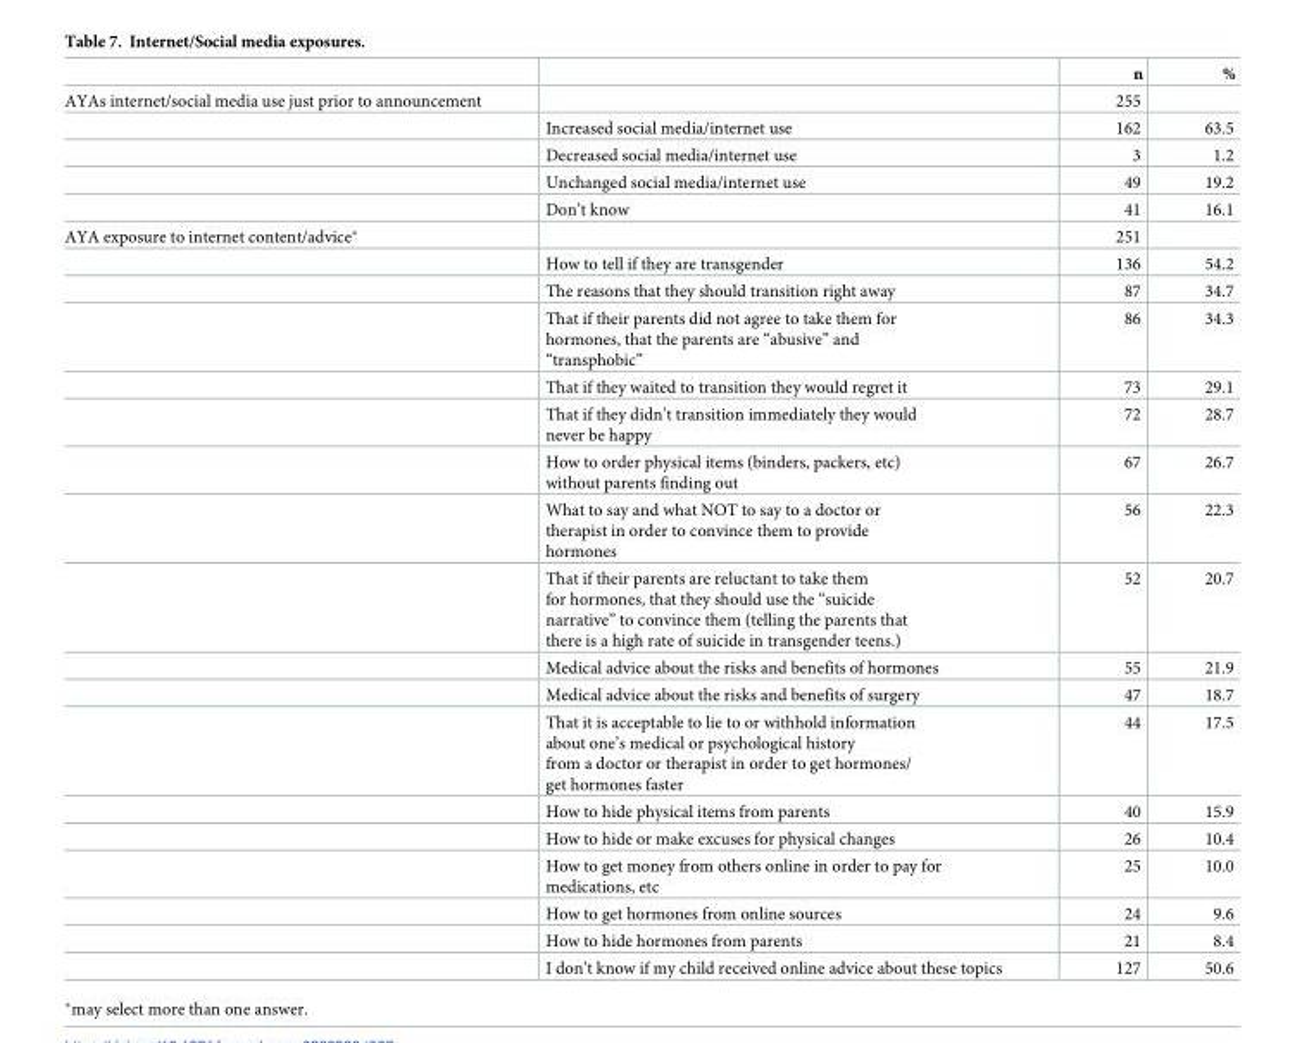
<table><thead><tr><td></td><td></td><td>n</td><td>%</td></tr></thead><tbody><tr><td rowspan="5">AYAs internet/social media use just prior to announcement</td><td></td><td>255</td><td></td></tr><tr><td>Increased social media/internet use</td><td>162</td><td>63.5</td></tr><tr><td>Decreased social media/internet use</td><td>3</td><td>1.2</td></tr><tr><td>Unchanged social media/internet use</td><td>49</td><td>19.2</td></tr><tr><td>Don’t know</td><td>41</td><td>16.1</td></tr><tr><td rowspan="18">AYA exposure to internet content/advice*</td><td></td><td>251</td><td></td></tr><tr><td>How to tell if they are transgender</td><td>136</td><td>54.2</td></tr><tr><td>The reasons that they should transition right away</td><td>87</td><td>34.7</td></tr><tr><td>That if their parents did not agree to take them for hormones, that the parents are “abusive” and “transphobic”</td><td>86</td><td>34.3</td></tr><tr><td>That if they waited to transition they would regret it</td><td>73</td><td>29.1</td></tr><tr><td>That if they didn’t transition immediately they would never be happy</td><td>72</td><td>28.7</td></tr><tr><td>How to order physical items (binders, packers, etc) without parents finding out</td><td>67</td><td>26.7</td></tr><tr><td>What to say and what NOT to say to a doctor or therapist in order to convince them to provide hormones</td><td>56</td><td>22.3</td></tr><tr><td>That if their parents are reluctant to take them for hormones, that they should use the “suicide narrative” to convince them (telling the parents that there is a high rate of suicide in transgender teens.)</td><td>52</td><td>20.7</td></tr><tr><td>Medical advice about the risks and benefits of hormones</td><td>55</td><td>21.9</td></tr><tr><td>Medical advice about the risks and benefits of surgery</td><td>47</td><td>18.7</td></tr><tr><td>That it is acceptable to lie to or withhold information about one’s medical or psychological history from a doctor or therapist in order to get hormones/ get hormones faster</td><td>44</td><td>17.5</td></tr><tr><td>How to hide physical items from parents</td><td>40</td><td>15.9</td></tr><tr><td>How to hide or make excuses for physical changes</td><td>26</td><td>10.4</td></tr><tr><td>How to get money from others online in order to pay for medications, etc</td><td>25</td><td>10.0</td></tr><tr><td>How to get hormones from online sources</td><td>24</td><td>9.6</td></tr><tr><td>How to hide hormones from parents</td><td>21</td><td>8.4</td></tr><tr><td>I don’t know if my child received online advice about these topics</td><td>127</td><td>50.6</td></tr></tbody></table>